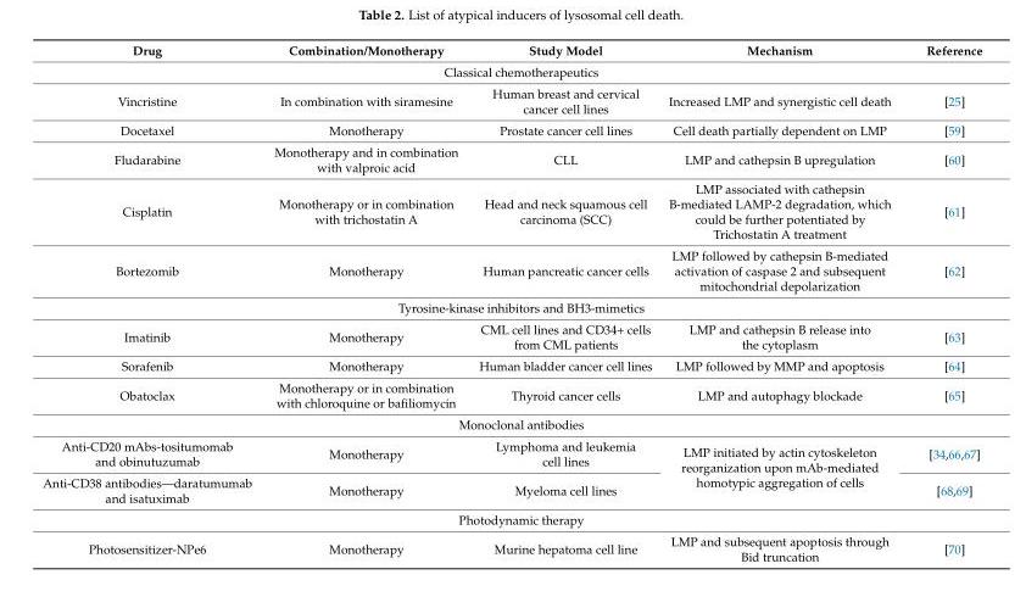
<table><thead><tr><td>Drug</td><td>Combination/Monotherapy</td><td>Study Model</td><td>Mechanism</td><td>Reference</td></tr></thead><tbody><tr><td colspan="5">Classical chemotherapeutics</td></tr><tr><td>Vincristine</td><td>In combination with siramesine</td><td>Human breast and cervical cancer cell lines</td><td>Increased LMP and synergistic cell death</td><td>[25]</td></tr><tr><td>Docetaxel</td><td>Monotherapy</td><td>Prostate cancer cell lines</td><td>Cell death partially dependent on LMP</td><td>[59]</td></tr><tr><td>Fludarabine</td><td>Monotherapy and in combination with valproic acid</td><td>CLL</td><td>LMP and cathepsin B upregulation</td><td>[60]</td></tr><tr><td>Cisplatin</td><td>Monotherapy or in combination with trichostatin A</td><td>Head and neck squamous cell carcinoma (SCC)</td><td>LMP associated with cathepsin B-mediated LAMP-2 degradation, which could be further potentiated by Trichostatin A treatment</td><td>[61]</td></tr><tr><td>Bortezomib</td><td>Monotherapy</td><td>Human pancreatic cancer cells</td><td>LMP followed by cathepsin B-mediated activation of caspase 2 and subsequent mitochondrial depolarization</td><td>[62]</td></tr><tr><td colspan="5">Tyrosine-kinase inhibitors and BH3-mimetics</td></tr><tr><td>Imatinib</td><td>Monotherapy</td><td>CML cell lines and CD34+ cells from CML patients</td><td>LMP and cathepsin B release into the cytoplasm</td><td>[63]</td></tr><tr><td>Sorafenib</td><td>Monotherapy</td><td>Human bladder cancer cell lines</td><td>LMP followed by MMP and apoptosis</td><td>[64]</td></tr><tr><td>Obatoclax</td><td>Monotherapy or in combination with chloroquine or bafiliomycin</td><td>Thyroid cancer cells</td><td>LMP and autophagy blockade</td><td>[65]</td></tr><tr><td colspan="5">Monoclonal antibodies</td></tr><tr><td>Anti-CD20 mAbs-tositumomab and obinutuzumab</td><td>Monotherapy</td><td>Lymphoma and leukemia cell lines</td><td rowspan="2">LMP initiated by actin cytoskeleton reorganization upon mAb-mediated homotypic aggregation of cells</td><td>[34,66,67]</td></tr><tr><td>Anti-CD38 antibodies—daratumumab and isatuximab</td><td>Monotherapy</td><td>Myeloma cell lines</td><td>[68,69]</td></tr><tr><td colspan="5">Photodynamic therapy</td></tr><tr><td>Photosensitizer-NPe6</td><td>Monotherapy</td><td>Murine hepatoma cell line</td><td>LMP and subsequent apoptosis through Bid truncation</td><td>[70]</td></tr></tbody></table>